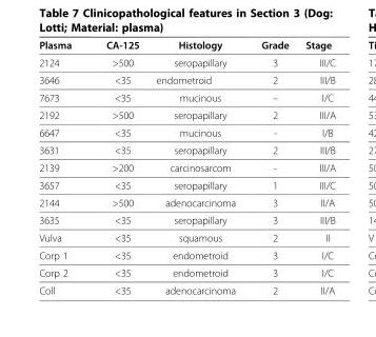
<table><thead><tr><td>Plasma</td><td>CA-125</td><td>Histology</td><td>Grade</td><td>Stage</td></tr></thead><tbody><tr><td>2124</td><td>&gt;500</td><td>seropapillary</td><td>3</td><td>III/C</td></tr><tr><td>3646</td><td>&lt;35</td><td>endometroid</td><td>2</td><td>III/B</td></tr><tr><td>7673</td><td>&lt;35</td><td>mucinous</td><td>–</td><td>I/C</td></tr><tr><td>2192</td><td>&gt;500</td><td>seropapillary</td><td>2</td><td>III/A</td></tr><tr><td>6647</td><td>&lt;35</td><td>mucinous</td><td>-</td><td>I/B</td></tr><tr><td>3631</td><td>&lt;35</td><td>seropapillary</td><td>2</td><td>III/B</td></tr><tr><td>2139</td><td>&gt;200</td><td>carcinosarcom</td><td>-</td><td>III/A</td></tr><tr><td>3657</td><td>&lt;35</td><td>seropapillary</td><td>1</td><td>III/C</td></tr><tr><td>2144</td><td>&gt;500</td><td>adenocarcinoma</td><td>3</td><td>II/A</td></tr><tr><td>3635</td><td>&lt;35</td><td>seropapillary</td><td>3</td><td>III/B</td></tr><tr><td>Vulva</td><td>&lt;35</td><td>squamous</td><td>2</td><td>II</td></tr><tr><td>Corp 1</td><td>&lt;35</td><td>endometroid</td><td>3</td><td>I/C</td></tr><tr><td>Corp 2</td><td>&lt;35</td><td>endometroid</td><td>3</td><td>I/C</td></tr><tr><td>Coll</td><td>&lt;35</td><td>adenocarcinoma</td><td>2</td><td>II/A</td></tr></tbody></table>